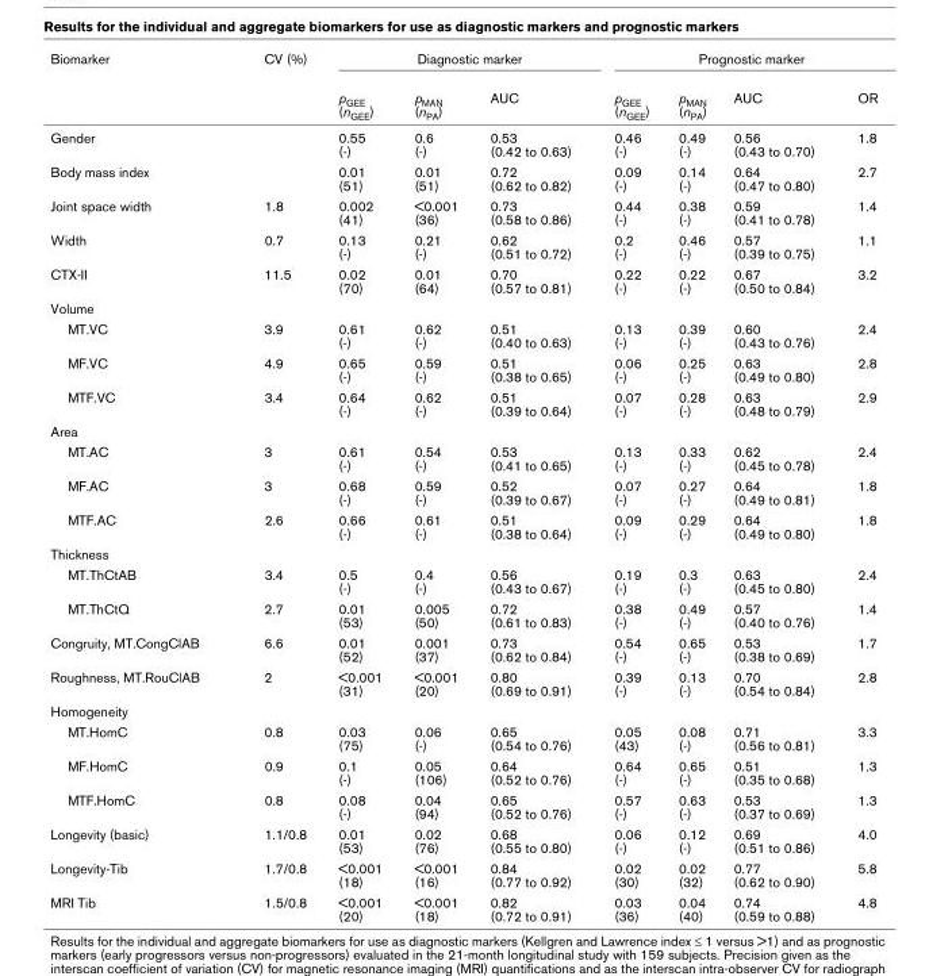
<table><thead><tr><td rowspan="2">Biomarker</td><td rowspan="2">CV (%)</td><td colspan="3">Diagnostic marker</td><td colspan="4">Prognostic marker</td></tr><tr><td>p<sub>GEE</sub> (n<sub>GEE</sub>)</td><td>p<sub>MAN</sub> (n<sub>PA</sub>)</td><td>AUC</td><td>p<sub>GEE</sub> (n<sub>GEE</sub>)</td><td>p<sub>MAN</sub> (n<sub>PA</sub>)</td><td>AUC</td><td>OR</td></tr></thead><tbody><tr><td>Gender</td><td></td><td>0.55 (-)</td><td>0.6 (-)</td><td>0.53 (0.42 to 0.63)</td><td>0.46 (-)</td><td>0.49 (-)</td><td>0.56 (0.43 to 0.70)</td><td>1.8</td></tr><tr><td>Body mass index</td><td></td><td>0.01 (51)</td><td>0.01 (51)</td><td>0.72 (0.62 to 0.82)</td><td>0.09 (-)</td><td>0.14 (-)</td><td>0.64 (0.47 to 0.80)</td><td>2.7</td></tr><tr><td>Joint space width</td><td>1.8</td><td>0.002 (41)</td><td>&lt;0.001 (36)</td><td>0.73 (0.58 to 0.86)</td><td>0.44 (-)</td><td>0.38 (-)</td><td>0.59 (0.41 to 0.78)</td><td>1.4</td></tr><tr><td>Width</td><td>0.7</td><td>0.13 (-)</td><td>0.21 (-)</td><td>0.62 (0.51 to 0.72)</td><td>0.2 (-)</td><td>0.46 (-)</td><td>0.57 (0.39 to 0.75)</td><td>1.1</td></tr><tr><td>CTX-II</td><td>11.5</td><td>0.02 (70)</td><td>0.01 (64)</td><td>0.70 (0.57 to 0.81)</td><td>0.22 (-)</td><td>0.22 (-)</td><td>0.67 (0.50 to 0.84)</td><td>3.2</td></tr><tr><td colspan="9">Volume</td></tr><tr><td>MT.VC</td><td>3.9</td><td>0.61 (-)</td><td>0.62 (-)</td><td>0.51 (0.40 to 0.63)</td><td>0.13 (-)</td><td>0.39 (-)</td><td>0.60 (0.43 to 0.76)</td><td>2.4</td></tr><tr><td>MF.VC</td><td>4.9</td><td>0.65 (-)</td><td>0.59 (-)</td><td>0.51 (0.38 to 0.65)</td><td>0.06 (-)</td><td>0.25 (-)</td><td>0.63 (0.49 to 0.80)</td><td>2.8</td></tr><tr><td>MTF.VC</td><td>3.4</td><td>0.64 (-)</td><td>0.62 (-)</td><td>0.51 (0.39 to 0.64)</td><td>0.07 (-)</td><td>0.28 (-)</td><td>0.63 (0.48 to 0.79)</td><td>2.9</td></tr><tr><td colspan="9">Area</td></tr><tr><td>MT.AC</td><td>3</td><td>0.61 (-)</td><td>0.54 (-)</td><td>0.53 (0.41 to 0.65)</td><td>0.13 (-)</td><td>0.33 (-)</td><td>0.62 (0.45 to 0.78)</td><td>2.4</td></tr><tr><td>MF.AC</td><td>3</td><td>0.68 (-)</td><td>0.59 (-)</td><td>0.52 (0.39 to 0.67)</td><td>0.07 (-)</td><td>0.27 (-)</td><td>0.64 (0.49 to 0.81)</td><td>1.8</td></tr><tr><td>MTF.AC</td><td>2.6</td><td>0.66 (-)</td><td>0.61 (-)</td><td>0.51 (0.38 to 0.64)</td><td>0.09 (-)</td><td>0.29 (-)</td><td>0.64 (0.49 to 0.80)</td><td>1.8</td></tr><tr><td colspan="9">Thickness</td></tr><tr><td>MT.ThCtAB</td><td>3.4</td><td>0.5 (-)</td><td>0.4 (-)</td><td>0.56 (0.43 to 0.67)</td><td>0.19 (-)</td><td>0.3 (-)</td><td>0.63 (0.45 to 0.80)</td><td>2.4</td></tr><tr><td>MT.ThCtQ</td><td>2.7</td><td>0.01 (53)</td><td>0.005 (50)</td><td>0.72 (0.61 to 0.83)</td><td>0.38 (-)</td><td>0.49 (-)</td><td>0.57 (0.40 to 0.76)</td><td>1.4</td></tr><tr><td>Congruity, MT.CongClAB</td><td>6.6</td><td>0.01 (52)</td><td>0.001 (37)</td><td>0.73 (0.62 to 0.84)</td><td>0.54 (-)</td><td>0.65 (-)</td><td>0.53 (0.38 to 0.69)</td><td>1.7</td></tr><tr><td>Roughness, MT.RouClAB</td><td>2</td><td>&lt;0.001 (31)</td><td>&lt;0.001 (20)</td><td>0.80 (0.69 to 0.91)</td><td>0.39 (-)</td><td>0.13 (-)</td><td>0.70 (0.54 to 0.84)</td><td>2.8</td></tr><tr><td colspan="9">Homogeneity</td></tr><tr><td>MT.HomC</td><td>0.8</td><td>0.03 (75)</td><td>0.06 (-)</td><td>0.65 (0.54 to 0.76)</td><td>0.05 (43)</td><td>0.08 (-)</td><td>0.71 (0.56 to 0.81)</td><td>3.3</td></tr><tr><td>MF.HomC</td><td>0.9</td><td>0.1 (-)</td><td>0.05 (106)</td><td>0.64 (0.52 to 0.76)</td><td>0.64 (-)</td><td>0.65 (-)</td><td>0.51 (0.35 to 0.68)</td><td>1.3</td></tr><tr><td>MTF.HomC</td><td>0.8</td><td>0.08 (-)</td><td>0.04 (94)</td><td>0.65 (0.52 to 0.76)</td><td>0.57 (-)</td><td>0.63 (-)</td><td>0.53 (0.37 to 0.69)</td><td>1.3</td></tr><tr><td>Longevity (basic)</td><td>1.1/0.8</td><td>0.01 (53)</td><td>0.02 (76)</td><td>0.68 (0.55 to 0.80)</td><td>0.06 (-)</td><td>0.12 (-)</td><td>0.69 (0.51 to 0.86)</td><td>4.0</td></tr><tr><td>Longevity-Tib</td><td>1.7/0.8</td><td>&lt;0.001 (18)</td><td>&lt;0.001 (16)</td><td>0.84 (0.77 to 0.92)</td><td>0.02 (30)</td><td>0.02 (32)</td><td>0.77 (0.62 to 0.90)</td><td>5.8</td></tr><tr><td>MRI Tib</td><td>1.5/0.8</td><td>&lt;0.001 (20)</td><td>&lt;0.001 (18)</td><td>0.82 (0.72 to 0.91)</td><td>0.03 (36)</td><td>0.04 (40)</td><td>0.74 (0.59 to 0.88)</td><td>4.8</td></tr></tbody></table>